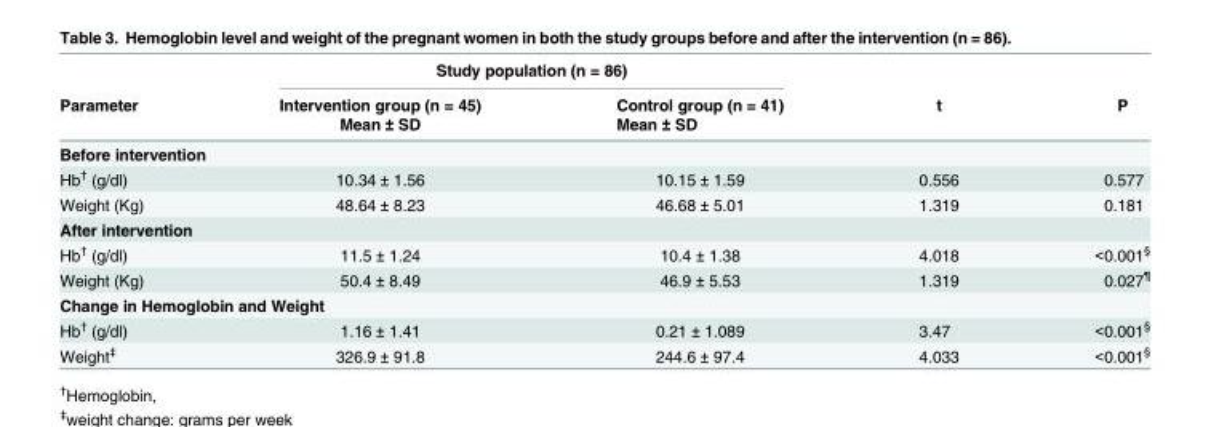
<table><thead><tr><td rowspan="3">Parameter</td><td colspan="2">Study population (n = 86)</td><td rowspan="3">t</td><td rowspan="3">P</td></tr><tr><td rowspan="2">Intervention group (n = 45) Mean ± SD</td><td rowspan="2">Control group (n = 41) Mean ± SD</td></tr><tr></tr></thead><tbody><tr><td colspan="5">Before intervention</td></tr><tr><td>Hb<sup>†</sup> (g/dl)</td><td>10.34 ± 1.56</td><td>10.15 ± 1.59</td><td>0.556</td><td>0.577</td></tr><tr><td>Weight (Kg)</td><td>48.64 ± 8.23</td><td>46.68 ± 5.01</td><td>1.319</td><td>0.181</td></tr><tr><td colspan="5">After intervention</td></tr><tr><td>Hb<sup>†</sup> (g/dl)</td><td>11.5 ± 1.24</td><td>10.4 ± 1.38</td><td>4.018</td><td>&lt;0.001<sup>§</sup></td></tr><tr><td>Weight (Kg)</td><td>50.4 ± 8.49</td><td>46.9 ± 5.53</td><td>1.319</td><td>0.027<sup>¶</sup></td></tr><tr><td colspan="5">Change in Hemoglobin and Weight</td></tr><tr><td>Hb<sup>†</sup> (g/dl)</td><td>1.16 ± 1.41</td><td>0.21 ± 1.089</td><td>3.47</td><td>&lt;0.001<sup>§</sup></td></tr><tr><td>Weight<sup>‡</sup></td><td>326.9 ± 91.8</td><td>244.6 ± 97.4</td><td>4.033</td><td>&lt;0.001<sup>§</sup></td></tr></tbody></table>